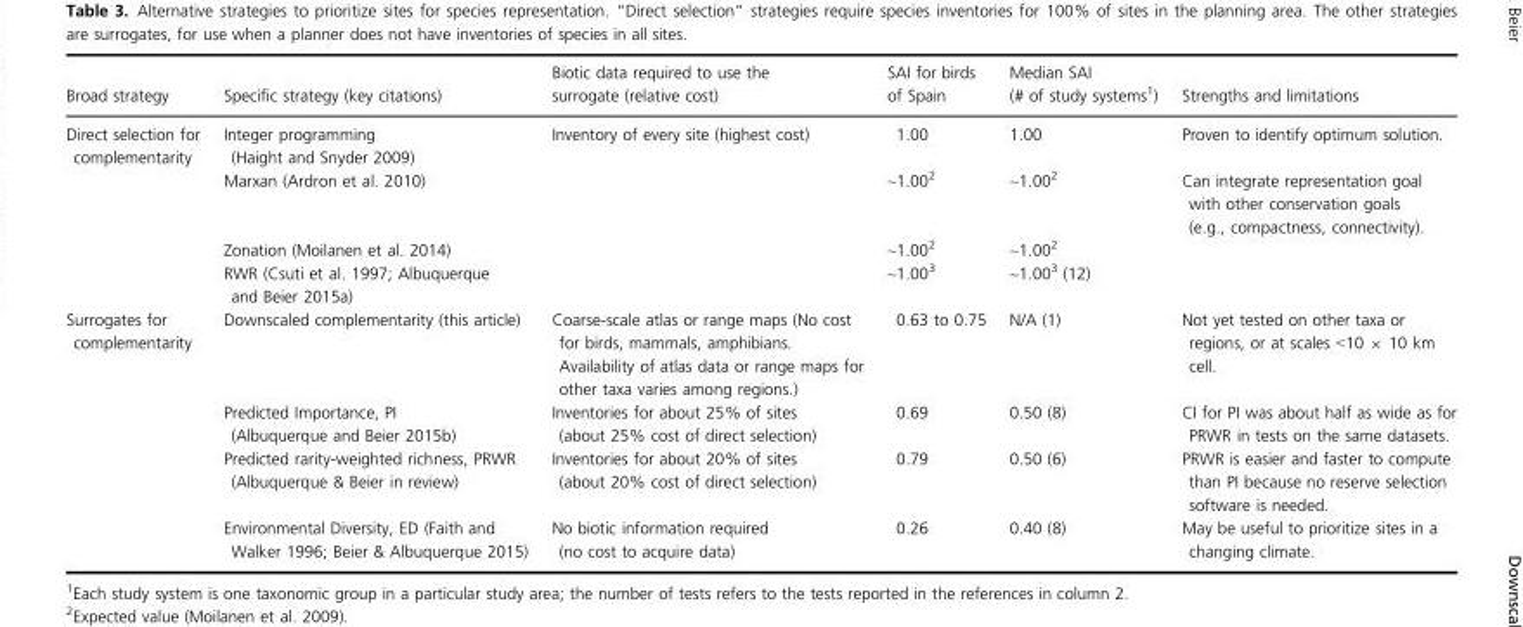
<table><thead><tr><td>Broad strategy</td><td>Specific strategy (key citations)</td><td>Biotic data required to use the surrogate (relative cost)</td><td>SAI for birds of Spain</td><td>Median SAI (# of study systems1)</td><td>Strengths and limitations</td></tr></thead><tbody><tr><td rowspan="4">Direct selection for complementarity</td><td>Integer programming (Haight and Snyder 2009)</td><td rowspan="4">Inventory of every site (highest cost)</td><td>1.00</td><td>1.00</td><td>Proven to identify optimum solution.</td></tr><tr><td>Marxan (Ardron et al. 2010)</td><td>~1.002</td><td>~1.002</td><td>Can integrate representation goal with other conservation goals (e.g., compactness, connectivity).</td></tr><tr><td>Zonation (Moilanen et al. 2014)</td><td>~1.002</td><td>~1.002</td><td></td></tr><tr><td>RWR (Csuti et al. 1997; Albuquerque and Beier 2015a)</td><td>~1.003</td><td>~1.003 (12)</td><td></td></tr><tr><td rowspan="4">Surrogates for complementarity</td><td>Downscaled complementarity (this article)</td><td>Coarse-scale atlas or range maps (No cost for birds, mammals, amphibians. Availability of atlas data or range maps for other taxa varies among regions.)</td><td>0.63 to 0.75</td><td>N/A (1)</td><td>Not yet tested on other taxa or regions, or at scales &lt;10 × 10 km cell.</td></tr><tr><td>Predicted Importance, PI (Albuquerque and Beier 2015b)</td><td>Inventories for about 25% of sites (about 25% cost of direct selection)</td><td>0.69</td><td>0.50 (8)</td><td>CI for PI was about half as wide as for PRWR in tests on the same datasets.</td></tr><tr><td>Predicted rarity-weighted richness, PRWR (Albuquerque &amp; Beier in review)</td><td>Inventories for about 20% of sites (about 20% cost of direct selection)</td><td>0.79</td><td>0.50 (6)</td><td>PRWR is easier and faster to compute than PI because no reserve selection software is needed.</td></tr><tr><td>Environmental Diversity, ED (Faith and Walker 1996; Beier &amp; Albuquerque 2015)</td><td>No biotic information required (no cost to acquire data)</td><td>0.26</td><td>0.40 (8)</td><td>May be useful to prioritize sites in a changing climate.</td></tr></tbody></table>